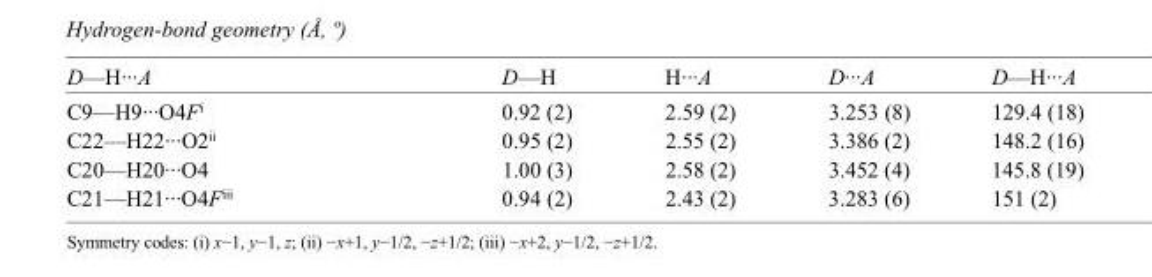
<table><tbody><tr><td>D—H···A</td><td>D—H</td><td>H···A</td><td>D···A</td><td>D—H···A</td></tr><tr><td>C9—H9···O4F<sup>i</sup></td><td>0.92 (2)</td><td>2.59 (2)</td><td>3.253 (8)</td><td>129.4 (18)</td></tr><tr><td>C22—H22···O2<sup>ii</sup></td><td>0.95 (2)</td><td>2.55 (2)</td><td>3.386 (2)</td><td>148.2 (16)</td></tr><tr><td>C20—H20···O4</td><td>1.00 (3)</td><td>2.58 (2)</td><td>3.452 (4)</td><td>145.8 (19)</td></tr><tr><td>C21—H21···O4F<sup>iii</sup></td><td>0.94 (2)</td><td>2.43 (2)</td><td>3.283 (6)</td><td>151 (2)</td></tr></tbody></table>